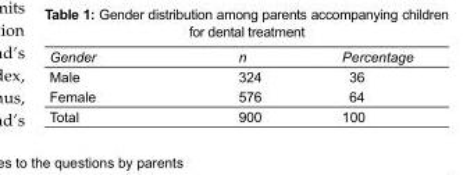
<table><tbody><tr><td>Gender</td><td>n</td><td>Percentage</td></tr><tr><td>Male</td><td>324</td><td>36</td></tr><tr><td>Female</td><td>576</td><td>64</td></tr><tr><td>Total</td><td>900</td><td>100</td></tr></tbody></table>